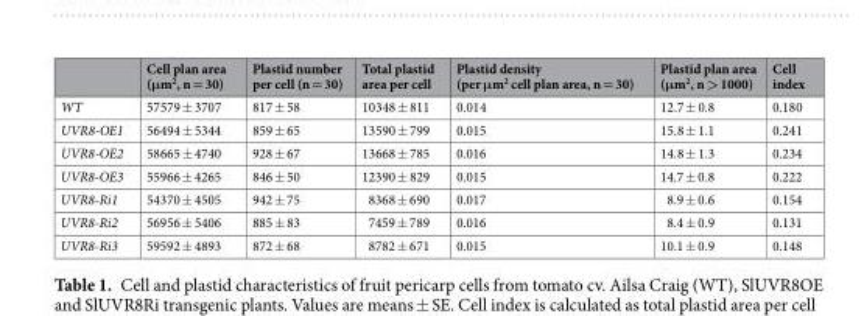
<table><thead><tr><td></td><td>Cell plan area (μm<sup>2</sup>, n = 30)</td><td>Plastid number per cell (n = 30)</td><td>Total plastid area per cell</td><td>Plastid density (per μm<sup>2</sup> cell plan area, n = 30)</td><td>Plastid plan area (μm<sup>2</sup>, n &gt; 1000)</td><td>Cell index</td></tr></thead><tbody><tr><td>WT</td><td>57579 ± 3707</td><td>817 ± 58</td><td>10348 ± 811</td><td>0.014</td><td>12.7 ± 0.8</td><td>0.180</td></tr><tr><td>UVR8-OE1</td><td>56494 ± 5344</td><td>859 ± 65</td><td>13590 ± 799</td><td>0.015</td><td>15.8 ± 1.1</td><td>0.241</td></tr><tr><td>UVR8-OE2</td><td>58665 ± 4740</td><td>928 ± 67</td><td>13668 ± 785</td><td>0.016</td><td>14.8 ± 1.3</td><td>0.234</td></tr><tr><td>UVR8-OE3</td><td>55966 ± 4265</td><td>846 ± 50</td><td>12390 ± 829</td><td>0.015</td><td>14.7 ± 0.8</td><td>0.222</td></tr><tr><td>UVR8-Ri1</td><td>54370 ± 4505</td><td>942 ± 75</td><td>8368 ± 690</td><td>0.017</td><td>8.9 ± 0.6</td><td>0.154</td></tr><tr><td>UVR8-Ri2</td><td>56956 ± 5406</td><td>885 ± 83</td><td>7459 ± 789</td><td>0.016</td><td>8.4 ± 0.9</td><td>0.131</td></tr><tr><td>UVR8-Ri3</td><td>59592 ± 4893</td><td>872 ± 68</td><td>8782 ± 671</td><td>0.015</td><td>10.1 ± 0.9</td><td>0.148</td></tr></tbody></table>